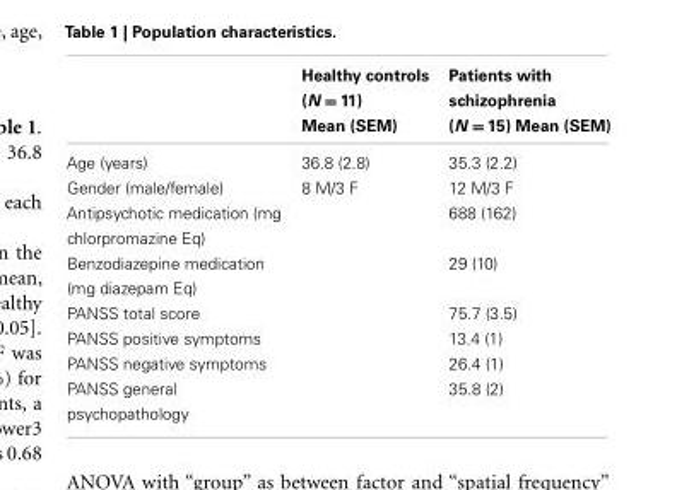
<table><thead><tr><td></td><td>Healthy controls (N = 11) Mean (SEM)</td><td>Patients with schizophrenia (N = 15) Mean (SEM)</td></tr></thead><tbody><tr><td>Age (years)</td><td>36.8 (2.8)</td><td>35.3 (2.2)</td></tr><tr><td>Gender (male/female)</td><td>8 M/3 F</td><td>12 M/3 F</td></tr><tr><td>Antipsychotic medication (mg chlorpromazine Eq)</td><td></td><td>688 (162)</td></tr><tr><td>Benzodiazepine medication (mg diazepam Eq)</td><td></td><td>29 (10)</td></tr><tr><td>PANSS total score</td><td></td><td>75.7 (3.5)</td></tr><tr><td>PANSS positive symptoms</td><td></td><td>13.4 (1)</td></tr><tr><td>PANSS negative symptoms</td><td></td><td>26.4 (1)</td></tr><tr><td>PANSS general psychopathology</td><td></td><td>35.8 (2)</td></tr></tbody></table>